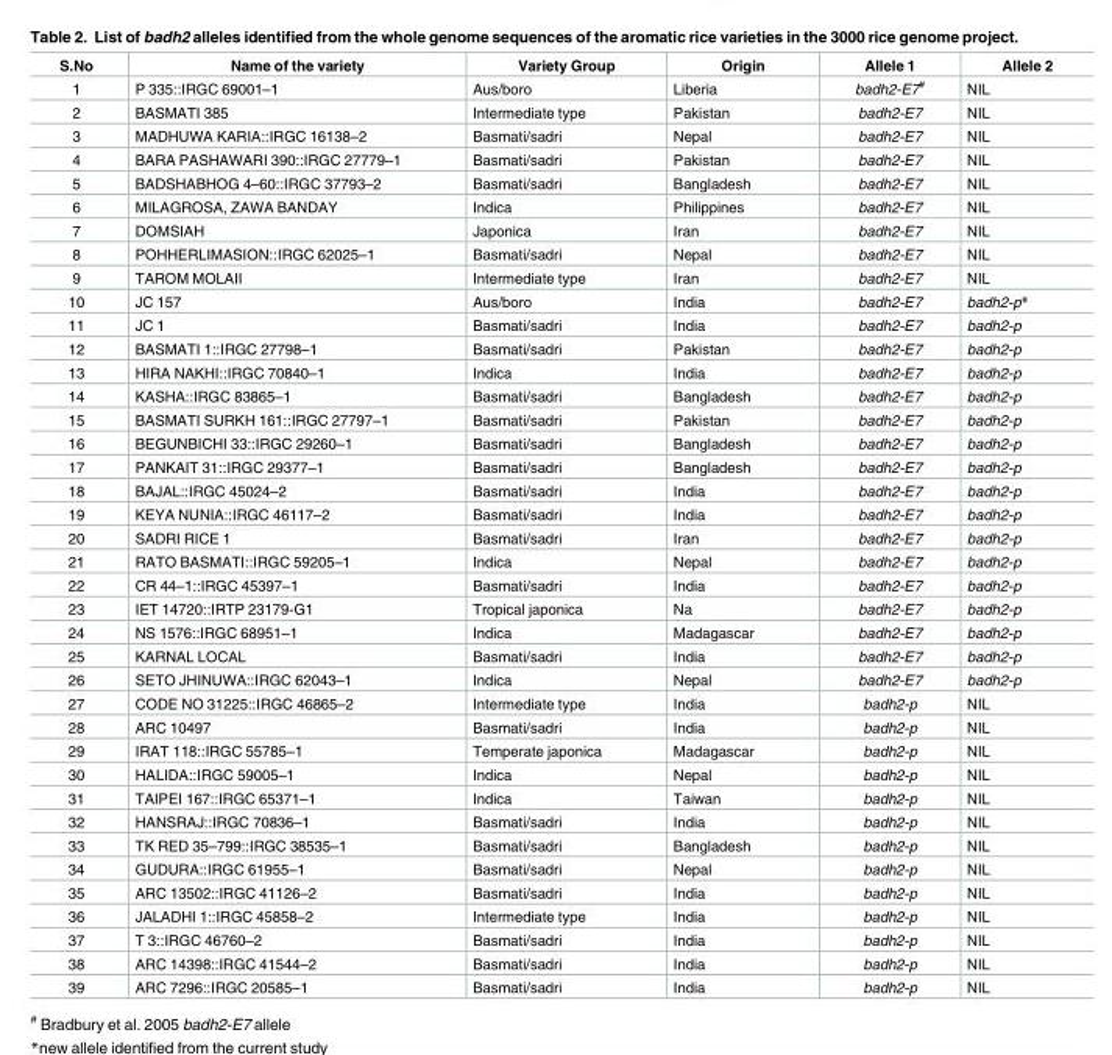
<table><thead><tr><td>S.No</td><td>Name of the variety</td><td>Variety Group</td><td>Origin</td><td>Allele 1</td><td>Allele 2</td></tr></thead><tbody><tr><td>1</td><td>P 335::IRGC 69001–1</td><td>Aus/boro</td><td>Liberia</td><td>badh2-E7<sup>#</sup></td><td>NIL</td></tr><tr><td>2</td><td>BASMATI 385</td><td>Intermediate type</td><td>Pakistan</td><td>badh2-E7</td><td>NIL</td></tr><tr><td>3</td><td>MADHUWA KARIA::IRGC 16138–2</td><td>Basmati/sadri</td><td>Nepal</td><td>badh2-E7</td><td>NIL</td></tr><tr><td>4</td><td>BARA PASHAWARI 390::IRGC 27779–1</td><td>Basmati/sadri</td><td>Pakistan</td><td>badh2-E7</td><td>NIL</td></tr><tr><td>5</td><td>BADSHABHOG 4–60::IRGC 37793–2</td><td>Basmati/sadri</td><td>Bangladesh</td><td>badh2-E7</td><td>NIL</td></tr><tr><td>6</td><td>MILAGROSA, ZAWA BANDAY</td><td>Indica</td><td>Philippines</td><td>badh2-E7</td><td>NIL</td></tr><tr><td>7</td><td>DOMSIAH</td><td>Japonica</td><td>Iran</td><td>badh2-E7</td><td>NIL</td></tr><tr><td>8</td><td>POHHERLIMASION::IRGC 62025–1</td><td>Basmati/sadri</td><td>Nepal</td><td>badh2-E7</td><td>NIL</td></tr><tr><td>9</td><td>TAROM MOLAII</td><td>Intermediate type</td><td>Iran</td><td>badh2-E7</td><td>NIL</td></tr><tr><td>10</td><td>JC 157</td><td>Aus/boro</td><td>India</td><td>badh2-E7</td><td>badh2-p*</td></tr><tr><td>11</td><td>JC 1</td><td>Basmati/sadri</td><td>India</td><td>badh2-E7</td><td>badh2-p</td></tr><tr><td>12</td><td>BASMATI 1::IRGC 27798–1</td><td>Basmati/sadri</td><td>Pakistan</td><td>badh2-E7</td><td>badh2-p</td></tr><tr><td>13</td><td>HIRA NAKHI::IRGC 70840–1</td><td>Indica</td><td>India</td><td>badh2-E7</td><td>badh2-p</td></tr><tr><td>14</td><td>KASHA::IRGC 83865–1</td><td>Basmati/sadri</td><td>Bangladesh</td><td>badh2-E7</td><td>badh2-p</td></tr><tr><td>15</td><td>BASMATI SURKH 161::IRGC 27797–1</td><td>Basmati/sadri</td><td>Pakistan</td><td>badh2-E7</td><td>badh2-p</td></tr><tr><td>16</td><td>BEGUNBICHI 33::IRGC 29260–1</td><td>Basmati/sadri</td><td>Bangladesh</td><td>badh2-E7</td><td>badh2-p</td></tr><tr><td>17</td><td>PANKAIT 31::IRGC 29377–1</td><td>Basmati/sadri</td><td>Bangladesh</td><td>badh2-E7</td><td>badh2-p</td></tr><tr><td>18</td><td>BAJAL::IRGC 45024–2</td><td>Basmati/sadri</td><td>India</td><td>badh2-E7</td><td>badh2-p</td></tr><tr><td>19</td><td>KEYA NUNIA::IRGC 46117–2</td><td>Basmati/sadri</td><td>India</td><td>badh2-E7</td><td>badh2-p</td></tr><tr><td>20</td><td>SADRI RICE 1</td><td>Basmati/sadri</td><td>Iran</td><td>badh2-E7</td><td>badh2-p</td></tr><tr><td>21</td><td>RATO BASMATI::IRGC 59205–1</td><td>Indica</td><td>Nepal</td><td>badh2-E7</td><td>badh2-p</td></tr><tr><td>22</td><td>CR 44–1::IRGC 45397–1</td><td>Basmati/sadri</td><td>India</td><td>badh2-E7</td><td>badh2-p</td></tr><tr><td>23</td><td>IET 14720::IRTP 23179-G1</td><td>Tropical japonica</td><td>Na</td><td>badh2-E7</td><td>badh2-p</td></tr><tr><td>24</td><td>NS 1576::IRGC 68951–1</td><td>Indica</td><td>Madagascar</td><td>badh2-E7</td><td>badh2-p</td></tr><tr><td>25</td><td>KARNAL LOCAL</td><td>Basmati/sadri</td><td>India</td><td>badh2-E7</td><td>badh2-p</td></tr><tr><td>26</td><td>SETO JHINUWA::IRGC 62043–1</td><td>Indica</td><td>Nepal</td><td>badh2-E7</td><td>badh2-p</td></tr><tr><td>27</td><td>CODE NO 31225::IRGC 46865–2</td><td>Intermediate type</td><td>India</td><td>badh2-p</td><td>NIL</td></tr><tr><td>28</td><td>ARC 10497</td><td>Basmati/sadri</td><td>India</td><td>badh2-p</td><td>NIL</td></tr><tr><td>29</td><td>IRAT 118::IRGC 55785–1</td><td>Temperate japonica</td><td>Madagascar</td><td>badh2-p</td><td>NIL</td></tr><tr><td>30</td><td>HALIDA::IRGC 59005–1</td><td>Indica</td><td>Nepal</td><td>badh2-p</td><td>NIL</td></tr><tr><td>31</td><td>TAIPEI 167::IRGC 65371–1</td><td>Indica</td><td>Taiwan</td><td>badh2-p</td><td>NIL</td></tr><tr><td>32</td><td>HANSRAJ::IRGC 70836–1</td><td>Basmati/sadri</td><td>India</td><td>badh2-p</td><td>NIL</td></tr><tr><td>33</td><td>TK RED 35–799::IRGC 38535–1</td><td>Basmati/sadri</td><td>Bangladesh</td><td>badh2-p</td><td>NIL</td></tr><tr><td>34</td><td>GUDURA::IRGC 61955–1</td><td>Basmati/sadri</td><td>Nepal</td><td>badh2-p</td><td>NIL</td></tr><tr><td>35</td><td>ARC 13502::IRGC 41126–2</td><td>Basmati/sadri</td><td>India</td><td>badh2-p</td><td>NIL</td></tr><tr><td>36</td><td>JALADHI 1::IRGC 45858–2</td><td>Intermediate type</td><td>India</td><td>badh2-p</td><td>NIL</td></tr><tr><td>37</td><td>T 3::IRGC 46760–2</td><td>Basmati/sadri</td><td>India</td><td>badh2-p</td><td>NIL</td></tr><tr><td>38</td><td>ARC 14398::IRGC 41544–2</td><td>Basmati/sadri</td><td>India</td><td>badh2-p</td><td>NIL</td></tr><tr><td>39</td><td>ARC 7296::IRGC 20585–1</td><td>Basmati/sadri</td><td>India</td><td>badh2-p</td><td>NIL</td></tr></tbody></table>